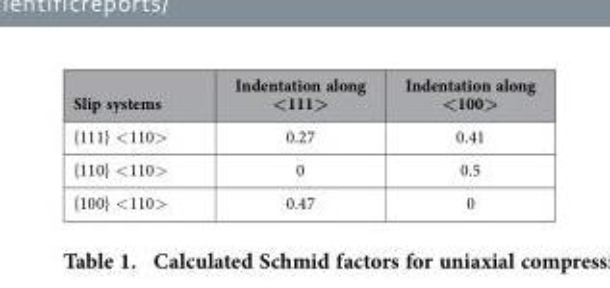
<table><thead><tr><td>Slip systems</td><td>Indentation along &lt;111&gt;</td><td>Indentation along &lt;100&gt;</td></tr></thead><tbody><tr><td>{111} &lt; 110&gt;</td><td>0.27</td><td>0.41</td></tr><tr><td>{110} &lt; 110&gt;</td><td>0</td><td>0.5</td></tr><tr><td>{100} &lt; 110&gt;</td><td>0.47</td><td>0</td></tr></tbody></table>